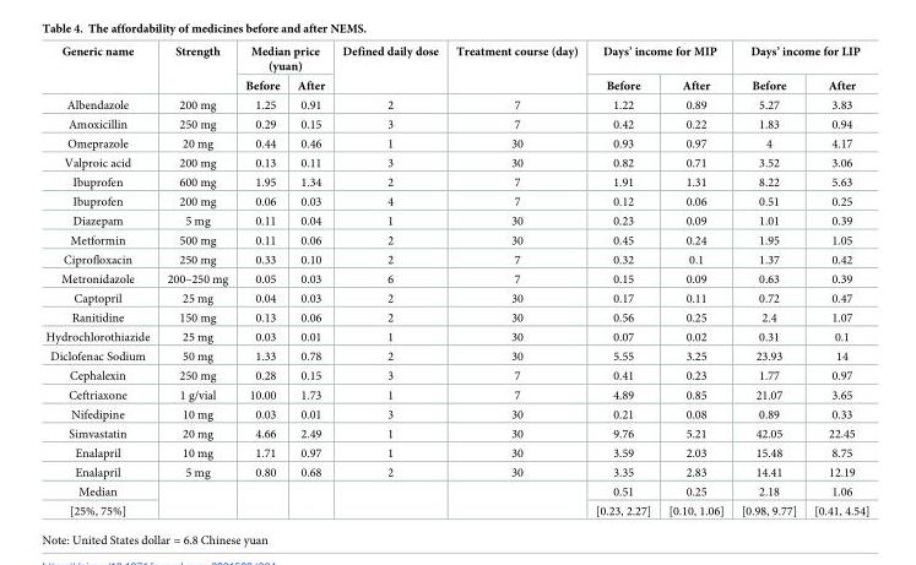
<table><thead><tr><td rowspan="2">Generic name</td><td rowspan="2">Strength</td><td colspan="2">Median price (yuan)</td><td rowspan="2">Defined daily dose</td><td rowspan="2">Treatment course (day)</td><td colspan="2">Days’ income for MIP</td><td colspan="2">Days’ income for LIP</td></tr><tr><td>Before</td><td>After</td><td>Before</td><td>After</td><td>Before</td><td>After</td></tr></thead><tbody><tr><td>Albendazole</td><td>200 mg</td><td>1.25</td><td>0.91</td><td>2</td><td>7</td><td>1.22</td><td>0.89</td><td>5.27</td><td>3.83</td></tr><tr><td>Amoxicillin</td><td>250 mg</td><td>0.29</td><td>0.15</td><td>3</td><td>7</td><td>0.42</td><td>0.22</td><td>1.83</td><td>0.94</td></tr><tr><td>Omeprazole</td><td>20 mg</td><td>0.44</td><td>0.46</td><td>1</td><td>30</td><td>0.93</td><td>0.97</td><td>4</td><td>4.17</td></tr><tr><td>Valproic acid</td><td>200 mg</td><td>0.13</td><td>0.11</td><td>3</td><td>30</td><td>0.82</td><td>0.71</td><td>3.52</td><td>3.06</td></tr><tr><td>Ibuprofen</td><td>600 mg</td><td>1.95</td><td>1.34</td><td>2</td><td>7</td><td>1.91</td><td>1.31</td><td>8.22</td><td>5.63</td></tr><tr><td>Ibuprofen</td><td>200 mg</td><td>0.06</td><td>0.03</td><td>4</td><td>7</td><td>0.12</td><td>0.06</td><td>0.51</td><td>0.25</td></tr><tr><td>Diazepam</td><td>5 mg</td><td>0.11</td><td>0.04</td><td>1</td><td>30</td><td>0.23</td><td>0.09</td><td>1.01</td><td>0.39</td></tr><tr><td>Metformin</td><td>500 mg</td><td>0.11</td><td>0.06</td><td>2</td><td>30</td><td>0.45</td><td>0.24</td><td>1.95</td><td>1.05</td></tr><tr><td>Ciprofloxacin</td><td>250 mg</td><td>0.33</td><td>0.10</td><td>2</td><td>7</td><td>0.32</td><td>0.1</td><td>1.37</td><td>0.42</td></tr><tr><td>Metronidazole</td><td>200–250 mg</td><td>0.05</td><td>0.03</td><td>6</td><td>7</td><td>0.15</td><td>0.09</td><td>0.63</td><td>0.39</td></tr><tr><td>Captopril</td><td>25 mg</td><td>0.04</td><td>0.03</td><td>2</td><td>30</td><td>0.17</td><td>0.11</td><td>0.72</td><td>0.47</td></tr><tr><td>Ranitidine</td><td>150 mg</td><td>0.13</td><td>0.06</td><td>2</td><td>30</td><td>0.56</td><td>0.25</td><td>2.4</td><td>1.07</td></tr><tr><td>Hydrochlorothiazide</td><td>25 mg</td><td>0.03</td><td>0.01</td><td>1</td><td>30</td><td>0.07</td><td>0.02</td><td>0.31</td><td>0.1</td></tr><tr><td>Diclofenac Sodium</td><td>50 mg</td><td>1.33</td><td>0.78</td><td>2</td><td>30</td><td>5.55</td><td>3.25</td><td>23.93</td><td>14</td></tr><tr><td>Cephalexin</td><td>250 mg</td><td>0.28</td><td>0.15</td><td>3</td><td>7</td><td>0.41</td><td>0.23</td><td>1.77</td><td>0.97</td></tr><tr><td>Ceftriaxone</td><td>1 g/vial</td><td>10.00</td><td>1.73</td><td>1</td><td>7</td><td>4.89</td><td>0.85</td><td>21.07</td><td>3.65</td></tr><tr><td>Nifedipine</td><td>10 mg</td><td>0.03</td><td>0.01</td><td>3</td><td>30</td><td>0.21</td><td>0.08</td><td>0.89</td><td>0.33</td></tr><tr><td>Simvastatin</td><td>20 mg</td><td>4.66</td><td>2.49</td><td>1</td><td>30</td><td>9.76</td><td>5.21</td><td>42.05</td><td>22.45</td></tr><tr><td>Enalapril</td><td>10 mg</td><td>1.71</td><td>0.97</td><td>1</td><td>30</td><td>3.59</td><td>2.03</td><td>15.48</td><td>8.75</td></tr><tr><td>Enalapril</td><td>5 mg</td><td>0.80</td><td>0.68</td><td>2</td><td>30</td><td>3.35</td><td>2.83</td><td>14.41</td><td>12.19</td></tr><tr><td>Median</td><td rowspan="2"></td><td rowspan="2"></td><td rowspan="2"></td><td rowspan="2"></td><td rowspan="2"></td><td>0.51</td><td>0.25</td><td>2.18</td><td>1.06</td></tr><tr><td>[25%, 75%]</td><td>[0.23, 2.27]</td><td>[0.10, 1.06]</td><td>[0.98, 9.77]</td><td>[0.41, 4.54]</td></tr></tbody></table>